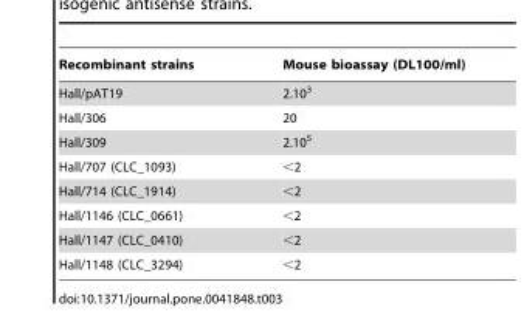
<table><thead><tr><td>Recombinant strains</td><td>Mouse bioassay (DL100/ml)</td></tr></thead><tbody><tr><td>Hall/pAT19</td><td>2.10<sup>3</sup></td></tr><tr><td>Hall/306</td><td>20</td></tr><tr><td>Hall/309</td><td>2.10<sup>5</sup></td></tr><tr><td>Hall/707 (CLC_1093)</td><td>&lt;2</td></tr><tr><td>Hall/714 (CLC_1914)</td><td>&lt;2</td></tr><tr><td>Hall/1146 (CLC_0661)</td><td>&lt;2</td></tr><tr><td>Hall/1147 (CLC_0410)</td><td>&lt;2</td></tr><tr><td>Hall/1148 (CLC_3294)</td><td>&lt;2</td></tr></tbody></table>